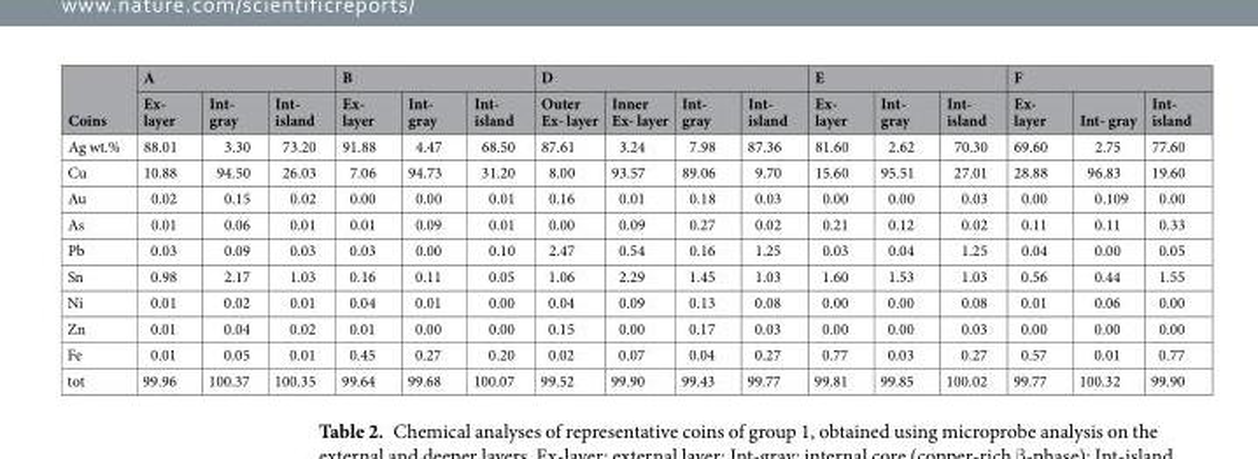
<table><thead><tr><td rowspan="2">Coins</td><td colspan="3">A</td><td colspan="3">B</td><td colspan="4">D</td><td colspan="3">E</td><td colspan="3">F</td></tr><tr><td>Ex- layer</td><td>Int- gray</td><td>Int- island</td><td>Ex- layer</td><td>Int- gray</td><td>Int- island</td><td>Outer Ex- layer</td><td>Inner Ex- layer</td><td>Int- gray</td><td>Int- island</td><td>Ex- layer</td><td>Int- gray</td><td>Int- island</td><td>Ex- layer</td><td>Int- gray</td><td>Int- island</td></tr></thead><tbody><tr><td>Ag wt.%</td><td>88.01</td><td>3.30</td><td>73.20</td><td>91.88</td><td>4.47</td><td>68.50</td><td>87.61</td><td>3.24</td><td>7.98</td><td>87.36</td><td>81.60</td><td>2.62</td><td>70.30</td><td>69.60</td><td>2.75</td><td>77.60</td></tr><tr><td>Cu</td><td>10.88</td><td>94.50</td><td>26.03</td><td>7.06</td><td>94.73</td><td>31.20</td><td>8.00</td><td>93.57</td><td>89.06</td><td>9.70</td><td>15.60</td><td>95.51</td><td>27.01</td><td>28.88</td><td>96.83</td><td>19.60</td></tr><tr><td>Au</td><td>0.02</td><td>0.15</td><td>0.02</td><td>0.00</td><td>0.00</td><td>0.01</td><td>0.16</td><td>0.01</td><td>0.18</td><td>0.03</td><td>0.00</td><td>0.00</td><td>0.03</td><td>0.00</td><td>0.109</td><td>0.00</td></tr><tr><td>As</td><td>0.01</td><td>0.06</td><td>0.01</td><td>0.01</td><td>0.09</td><td>0.01</td><td>0.00</td><td>0.09</td><td>0.27</td><td>0.02</td><td>0.21</td><td>0.12</td><td>0.02</td><td>0.11</td><td>0.11</td><td>0.33</td></tr><tr><td>Pb</td><td>0.03</td><td>0.09</td><td>0.03</td><td>0.03</td><td>0.00</td><td>0.10</td><td>2.47</td><td>0.54</td><td>0.16</td><td>1.25</td><td>0.03</td><td>0.04</td><td>1.25</td><td>0.04</td><td>0.00</td><td>0.05</td></tr><tr><td>Sn</td><td>0.98</td><td>2.17</td><td>1.03</td><td>0.16</td><td>0.11</td><td>0.05</td><td>1.06</td><td>2.29</td><td>1.45</td><td>1.03</td><td>1.60</td><td>1.53</td><td>1.03</td><td>0.56</td><td>0.44</td><td>1.55</td></tr><tr><td>Ni</td><td>0.01</td><td>0.02</td><td>0.01</td><td>0.04</td><td>0.01</td><td>0.00</td><td>0.04</td><td>0.09</td><td>0.13</td><td>0.08</td><td>0.00</td><td>0.00</td><td>0.08</td><td>0.01</td><td>0.06</td><td>0.00</td></tr><tr><td>Zn</td><td>0.01</td><td>0.04</td><td>0.02</td><td>0.01</td><td>0.00</td><td>0.00</td><td>0.15</td><td>0.00</td><td>0.17</td><td>0.03</td><td>0.00</td><td>0.00</td><td>0.03</td><td>0.00</td><td>0.00</td><td>0.00</td></tr><tr><td>Fe</td><td>0.01</td><td>0.05</td><td>0.01</td><td>0.45</td><td>0.27</td><td>0.20</td><td>0.02</td><td>0.07</td><td>0.04</td><td>0.27</td><td>0.77</td><td>0.03</td><td>0.27</td><td>0.57</td><td>0.01</td><td>0.77</td></tr><tr><td>tot</td><td>99.96</td><td>100.37</td><td>100.35</td><td>99.64</td><td>99.68</td><td>100.07</td><td>99.52</td><td>99.90</td><td>99.43</td><td>99.77</td><td>99.81</td><td>99.85</td><td>100.02</td><td>99.77</td><td>100.32</td><td>99.90</td></tr></tbody></table>